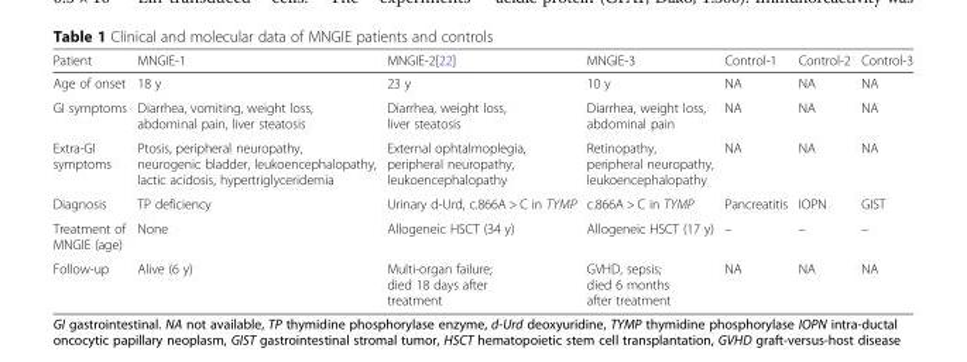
<table><thead><tr><td>Patient</td><td>MNGIE-1</td><td>MNGIE-2[22]</td><td>MNGIE-3</td><td>Control-1</td><td>Control-2</td><td>Control-3</td></tr></thead><tbody><tr><td>Age of onset</td><td>18 y</td><td>23 y</td><td>10 y</td><td>NA</td><td>NA</td><td>NA</td></tr><tr><td>GI symptoms</td><td>Diarrhea, vomiting, weight loss, abdominal pain, liver steatosis</td><td>Diarrhea, weight loss, liver steatosis</td><td>Diarrhea, weight loss, abdominal pain</td><td>NA</td><td>NA</td><td>NA</td></tr><tr><td>Extra-GI symptoms</td><td>Ptosis, peripheral neuropathy, neurogenic bladder, leukoencephalopathy, lactic acidosis, hypertriglyceridemia</td><td>External ophtalmoplegia, peripheral neuropathy, leukoencephalopathy</td><td>Retinopathy, peripheral neuropathy, leukoencephalopathy</td><td>NA</td><td>NA</td><td>NA</td></tr><tr><td>Diagnosis</td><td>TP deficiency</td><td>Urinary d-Urd, c.866A &gt; C in TYMP</td><td>c.866A &gt; C in TYMP</td><td>Pancreatitis</td><td>IOPN</td><td>GIST</td></tr><tr><td>Treatment of MNGIE (age)</td><td>None</td><td>Allogeneic HSCT (34 y)</td><td>Allogeneic HSCT (17 y)</td><td>–</td><td>–</td><td>–</td></tr><tr><td>Follow-up</td><td>Alive (6 y)</td><td>Multi-organ failure; died 18 days after treatment</td><td>GVHD, sepsis; died 6 months after treatment</td><td>NA</td><td>NA</td><td>NA</td></tr></tbody></table>